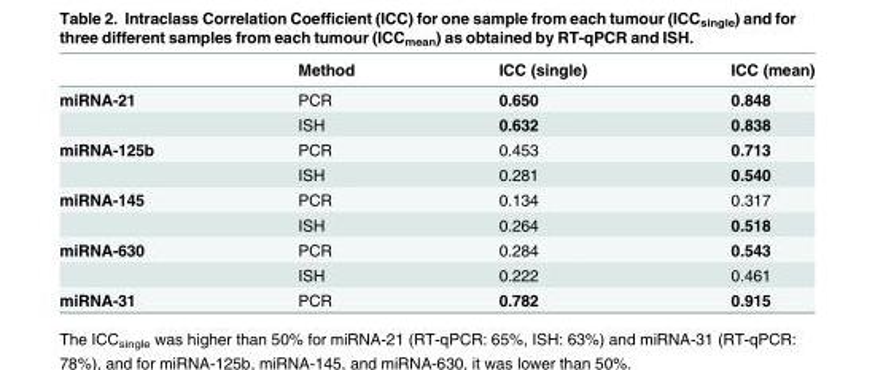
<table><thead><tr><td></td><td>Method</td><td>ICC (single)</td><td>ICC (mean)</td></tr></thead><tbody><tr><td rowspan="2">miRNA-21</td><td>PCR</td><td>0.650</td><td>0.848</td></tr><tr><td>ISH</td><td>0.632</td><td>0.838</td></tr><tr><td rowspan="2">miRNA-125b</td><td>PCR</td><td>0.453</td><td>0.713</td></tr><tr><td>ISH</td><td>0.281</td><td>0.540</td></tr><tr><td rowspan="2">miRNA-145</td><td>PCR</td><td>0.134</td><td>0.317</td></tr><tr><td>ISH</td><td>0.264</td><td>0.518</td></tr><tr><td rowspan="2">miRNA-630</td><td>PCR</td><td>0.284</td><td>0.543</td></tr><tr><td>ISH</td><td>0.222</td><td>0.461</td></tr><tr><td>miRNA-31</td><td>PCR</td><td>0.782</td><td>0.915</td></tr></tbody></table>